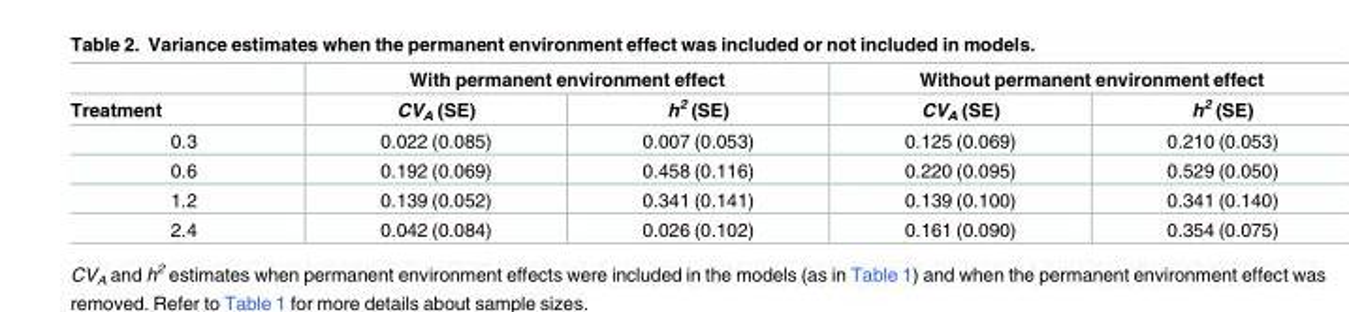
<table><thead><tr><td rowspan="2">Treatment</td><td colspan="2">With permanent environment effect</td><td colspan="2">Without permanent environment effect</td></tr><tr><td>CV<sub>A</sub> (SE)</td><td>h<sup>2</sup> (SE)</td><td>CV<sub>A</sub> (SE)</td><td>h<sup>2</sup> (SE)</td></tr></thead><tbody><tr><td>0.3</td><td>0.022 (0.085)</td><td>0.007 (0.053)</td><td>0.125 (0.069)</td><td>0.210 (0.053)</td></tr><tr><td>0.6</td><td>0.192 (0.069)</td><td>0.458 (0.116)</td><td>0.220 (0.095)</td><td>0.529 (0.050)</td></tr><tr><td>1.2</td><td>0.139 (0.052)</td><td>0.341 (0.141)</td><td>0.139 (0.100)</td><td>0.341 (0.140)</td></tr><tr><td>2.4</td><td>0.042 (0.084)</td><td>0.026 (0.102)</td><td>0.161 (0.090)</td><td>0.354 (0.075)</td></tr></tbody></table>